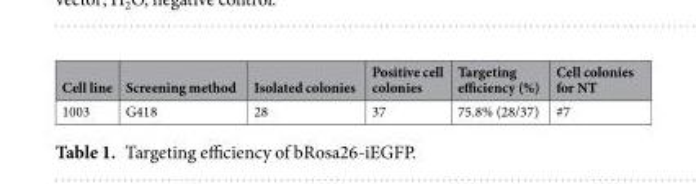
<table><thead><tr><td>Cell line</td><td>Screening method</td><td>Isolated colonies</td><td>Positive cell colonies</td><td>Targeting efficiency (%)</td><td>Cell colonies for NT</td></tr></thead><tbody><tr><td>1003</td><td>G418</td><td>28</td><td>37</td><td>75.8% (28/37)</td><td>#7</td></tr></tbody></table>